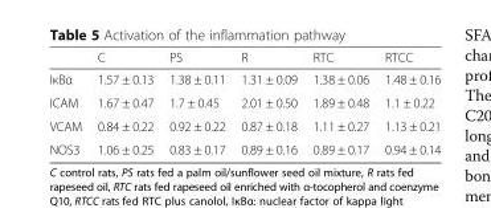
<table><thead><tr><td></td><td>C</td><td>PS</td><td>R</td><td>RTC</td><td>RTCC</td></tr></thead><tbody><tr><td>IκBα</td><td>1.57 ± 0.13</td><td>1.38 ± 0.11</td><td>1.31 ± 0.09</td><td>1.38 ± 0.06</td><td>1.48 ± 0.16</td></tr><tr><td>ICAM</td><td>1.67 ± 0.47</td><td>1.7 ± 0.45</td><td>2.01 ± 0.50</td><td>1.89 ± 0.48</td><td>1.1 ± 0.22</td></tr><tr><td>VCAM</td><td>0.84 ± 0.22</td><td>0.92 ± 0.22</td><td>0.87 ± 0.18</td><td>1.11 ± 0.27</td><td>1.13 ± 0.21</td></tr><tr><td>NOS3</td><td>1.06 ± 0.25</td><td>0.83 ± 0.17</td><td>0.89 ± 0.16</td><td>0.89 ± 0.17</td><td>0.94 ± 0.14</td></tr></tbody></table>